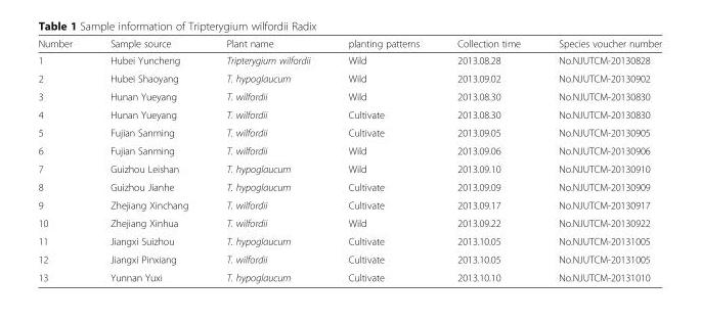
<table><thead><tr><td>Number</td><td>Sample source</td><td>Plant name</td><td>planting patterns</td><td>Collection time</td><td>Species voucher number</td></tr></thead><tbody><tr><td>1</td><td>Hubei Yuncheng</td><td>Tripterygium wilfordii</td><td>Wild</td><td>2013.08.28</td><td>No.NJUTCM-20130828</td></tr><tr><td>2</td><td>Hubei Shaoyang</td><td>T. hypoglaucum</td><td>Wild</td><td>2013.09.02</td><td>No.NJUTCM-20130902</td></tr><tr><td>3</td><td>Hunan Yueyang</td><td>T. wilfordii</td><td>Wild</td><td>2013.08.30</td><td>No.NJUTCM-20130830</td></tr><tr><td>4</td><td>Hunan Yueyang</td><td>T. wilfordii</td><td>Cultivate</td><td>2013.08.30</td><td>No.NJUTCM-20130830</td></tr><tr><td>5</td><td>Fujian Sanming</td><td>T. wilfordii</td><td>Cultivate</td><td>2013.09.05</td><td>No.NJUTCM-20130905</td></tr><tr><td>6</td><td>Fujian Sanming</td><td>T. wilfordii</td><td>Wild</td><td>2013.09.06</td><td>No.NJUTCM-20130906</td></tr><tr><td>7</td><td>Guizhou Leishan</td><td>T. hypoglaucum</td><td>Wild</td><td>2013.09.10</td><td>No.NJUTCM-20130910</td></tr><tr><td>8</td><td>Guizhou Jianhe</td><td>T. hypoglaucum</td><td>Cultivate</td><td>2013.09.09</td><td>No.NJUTCM-20130909</td></tr><tr><td>9</td><td>Zhejiang Xinchang</td><td>T. wilfordii</td><td>Cultivate</td><td>2013.09.17</td><td>No.NJUTCM-20130917</td></tr><tr><td>10</td><td>Zhejiang Xinhua</td><td>T. wilfordii</td><td>Wild</td><td>2013.09.22</td><td>No.NJUTCM-20130922</td></tr><tr><td>11</td><td>Jiangxi Suizhou</td><td>T. hypoglaucum</td><td>Cultivate</td><td>2013.10.05</td><td>No.NJUTCM-20131005</td></tr><tr><td>12</td><td>Jiangxi Pinxiang</td><td>T. wilfordii</td><td>Cultivate</td><td>2013.10.05</td><td>No.NJUTCM-20131005</td></tr><tr><td>13</td><td>Yunnan Yuxi</td><td>T. hypoglaucum</td><td>Cultivate</td><td>2013.10.10</td><td>No.NJUTCM-20131010</td></tr></tbody></table>